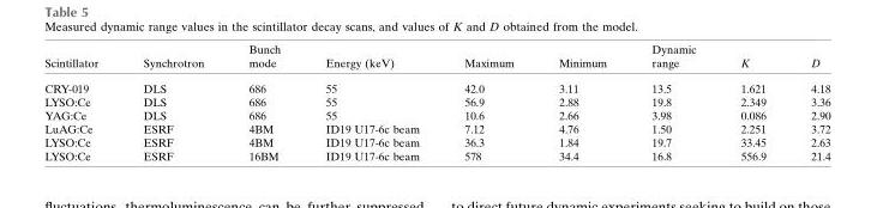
<table><thead><tr><td>Scintillator</td><td>Synchrotron</td><td>Bunch mode</td><td>Energy (keV)</td><td>Maximum</td><td>Minimum</td><td>Dynamic range</td><td>K</td><td>D</td></tr></thead><tbody><tr><td>CRY-019</td><td>DLS</td><td>686</td><td>55</td><td>42.0</td><td>3.11</td><td>13.5</td><td>1.621</td><td>4.18</td></tr><tr><td>LYSO:Ce</td><td>DLS</td><td>686</td><td>55</td><td>56.9</td><td>2.88</td><td>19.8</td><td>2.349</td><td>3.36</td></tr><tr><td>YAG:Ce</td><td>DLS</td><td>686</td><td>55</td><td>10.6</td><td>2.66</td><td>3.98</td><td>0.086</td><td>2.90</td></tr><tr><td>LuAG:Ce</td><td>ESRF</td><td>4BM</td><td>ID19 U17-6c beam</td><td>7.12</td><td>4.76</td><td>1.50</td><td>2.251</td><td>3.72</td></tr><tr><td>LYSO:Ce</td><td>ESRF</td><td>4BM</td><td>ID19 U17-6c beam</td><td>36.3</td><td>1.84</td><td>19.7</td><td>33.45</td><td>2.63</td></tr><tr><td>LYSO:Ce</td><td>ESRF</td><td>16BM</td><td>ID19 U17-6c beam</td><td>578</td><td>34.4</td><td>16.8</td><td>556.9</td><td>21.4</td></tr></tbody></table>